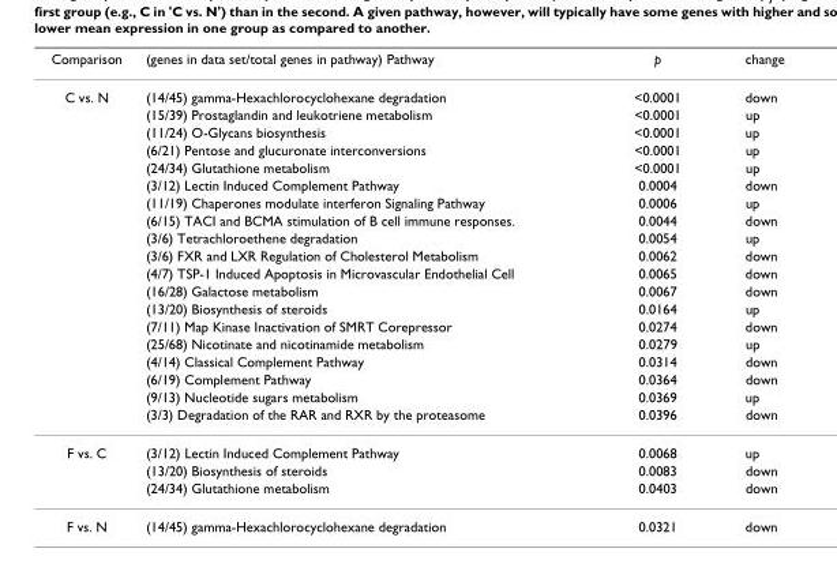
<table><thead><tr><td>Comparison</td><td>(genes in data set/total genes in pathway) Pathway</td><td>p</td><td>change</td></tr></thead><tbody><tr><td rowspan="19">C vs. N</td><td>(14/45) gamma-Hexachlorocyclohexane degradation</td><td>&lt;0.0001</td><td>down</td></tr><tr><td>(15/39) Prostaglandin and leukotriene metabolism</td><td>&lt;0.0001</td><td>up</td></tr><tr><td>(11/24) O-Glycans biosynthesis</td><td>&lt;0.0001</td><td>up</td></tr><tr><td>(6/21) Pentose and glucuronate interconversions</td><td>&lt;0.0001</td><td>up</td></tr><tr><td>(24/34) Glutathione metabolism</td><td>&lt;0.0001</td><td>up</td></tr><tr><td>(3/12) Lectin Induced Complement Pathway</td><td>0.0004</td><td>down</td></tr><tr><td>(11/19) Chaperones modulate interferon Signaling Pathway</td><td>0.0006</td><td>up</td></tr><tr><td>(6/15) TACI and BCMA stimulation of B cell immune responses.</td><td>0.0044</td><td>down</td></tr><tr><td>(3/6) Tetrachloroethene degradation</td><td>0.0054</td><td>up</td></tr><tr><td>(3/6) FXR and LXR Regulation of Cholesterol Metabolism</td><td>0.0062</td><td>down</td></tr><tr><td>(4/7) TSP-1 Induced Apoptosis in Microvascular Endothelial Cell</td><td>0.0065</td><td>down</td></tr><tr><td>(16/28) Galactose metabolism</td><td>0.0067</td><td>down</td></tr><tr><td>(13/20) Biosynthesis of steroids</td><td>0.0164</td><td>up</td></tr><tr><td>(7/11) Map Kinase Inactivation of SMRT Corepressor</td><td>0.0274</td><td>down</td></tr><tr><td>(25/68) Nicotinate and nicotinamide metabolism</td><td>0.0279</td><td>up</td></tr><tr><td>(4/14) Classical Complement Pathway</td><td>0.0314</td><td>down</td></tr><tr><td>(6/19) Complement Pathway</td><td>0.0364</td><td>down</td></tr><tr><td>(9/13) Nucleotide sugars metabolism</td><td>0.0369</td><td>up</td></tr><tr><td>(3/3) Degradation of the RAR and RXR by the proteasome</td><td>0.0396</td><td>down</td></tr><tr><td rowspan="3">F vs. C</td><td>(3/12) Lectin Induced Complement Pathway</td><td>0.0068</td><td>up</td></tr><tr><td>(13/20) Biosynthesis of steroids</td><td>0.0083</td><td>down</td></tr><tr><td>(24/34) Glutathione metabolism</td><td>0.0403</td><td>down</td></tr><tr><td>F vs. N</td><td>(14/45) gamma-Hexachlorocyclohexane degradation</td><td>0.0321</td><td>down</td></tr></tbody></table>